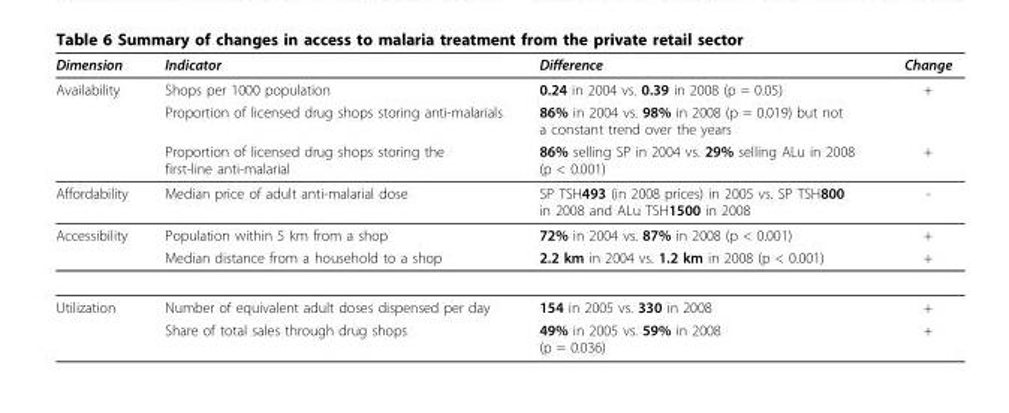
<table><thead><tr><td>Dimension</td><td>Indicator</td><td>Difference</td><td>Change</td></tr></thead><tbody><tr><td rowspan="3">Availability</td><td>Shops per 1000 population</td><td>0.24 in 2004 vs. 0.39 in 2008 (p = 0.05)</td><td>+</td></tr><tr><td>Proportion of licensed drug shops storing anti-malarials</td><td>86% in 2004 vs. 98% in 2008 (p = 0.019) but not a constant trend over the years</td><td></td></tr><tr><td>Proportion of licensed drug shops storing the first-line anti-malarial</td><td>86% selling SP in 2004 vs. 29% selling ALu in 2008 (p &lt; 0.001)</td><td>+</td></tr><tr><td>Affordability</td><td>Median price of adult anti-malarial dose</td><td>SP TSH493 (in 2008 prices) in 2005 vs. SP TSH800 in 2008 and ALu TSH1500 in 2008</td><td>-</td></tr><tr><td rowspan="2">Accessibility</td><td>Population within 5 km from a shop</td><td>72% in 2004 vs. 87% in 2008 (p &lt; 0.001)</td><td>+</td></tr><tr><td>Median distance from a household to a shop</td><td>2.2 km in 2004 vs. 1.2 km in 2008 (p &lt; 0.001)</td><td>+</td></tr><tr><td rowspan="2">Utilization</td><td>Number of equivalent adult doses dispensed per day</td><td>154 in 2005 vs. 330 in 2008</td><td>+</td></tr><tr><td>Share of total sales through drug shops</td><td>49% in 2005 vs. 59% in 2008 (p = 0.036)</td><td>+</td></tr></tbody></table>